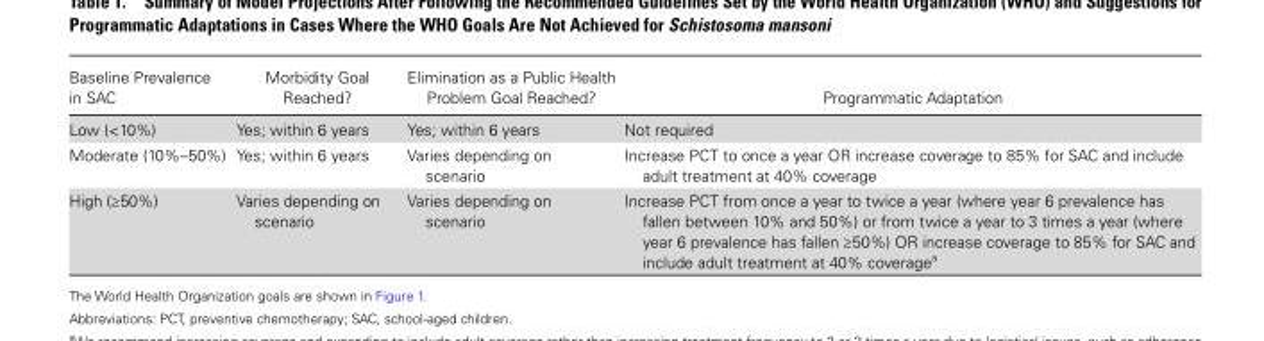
<table><thead><tr><td>Baseline Prevalence in SAC</td><td>Morbidity Goal Reached?</td><td>Elimination as a Public Health Problem Goal Reached?</td><td>Programmatic Adaptation</td></tr></thead><tbody><tr><td>Low (&lt;10%)</td><td>Yes; within 6 years</td><td>Yes; within 6 years</td><td>Not required</td></tr><tr><td>Moderate (10%–50%)</td><td>Yes; within 6 years</td><td>Varies depending on scenario</td><td>Increase PCT to once a year OR increase coverage to 85% for SAC and include adult treatment at 40% coverage</td></tr><tr><td>High (≥50%)</td><td>Varies depending on scenario</td><td>Varies depending on scenario</td><td>Increase PCT from once a year to twice a year (where year 6 prevalence has fallen between 10% and 50%) or from twice a year to 3 times a year (where year 6 prevalence has fallen ≥50%) OR increase coverage to 85% for SAC and include adult treatment at 40% coverage<sup>a</sup></td></tr></tbody></table>